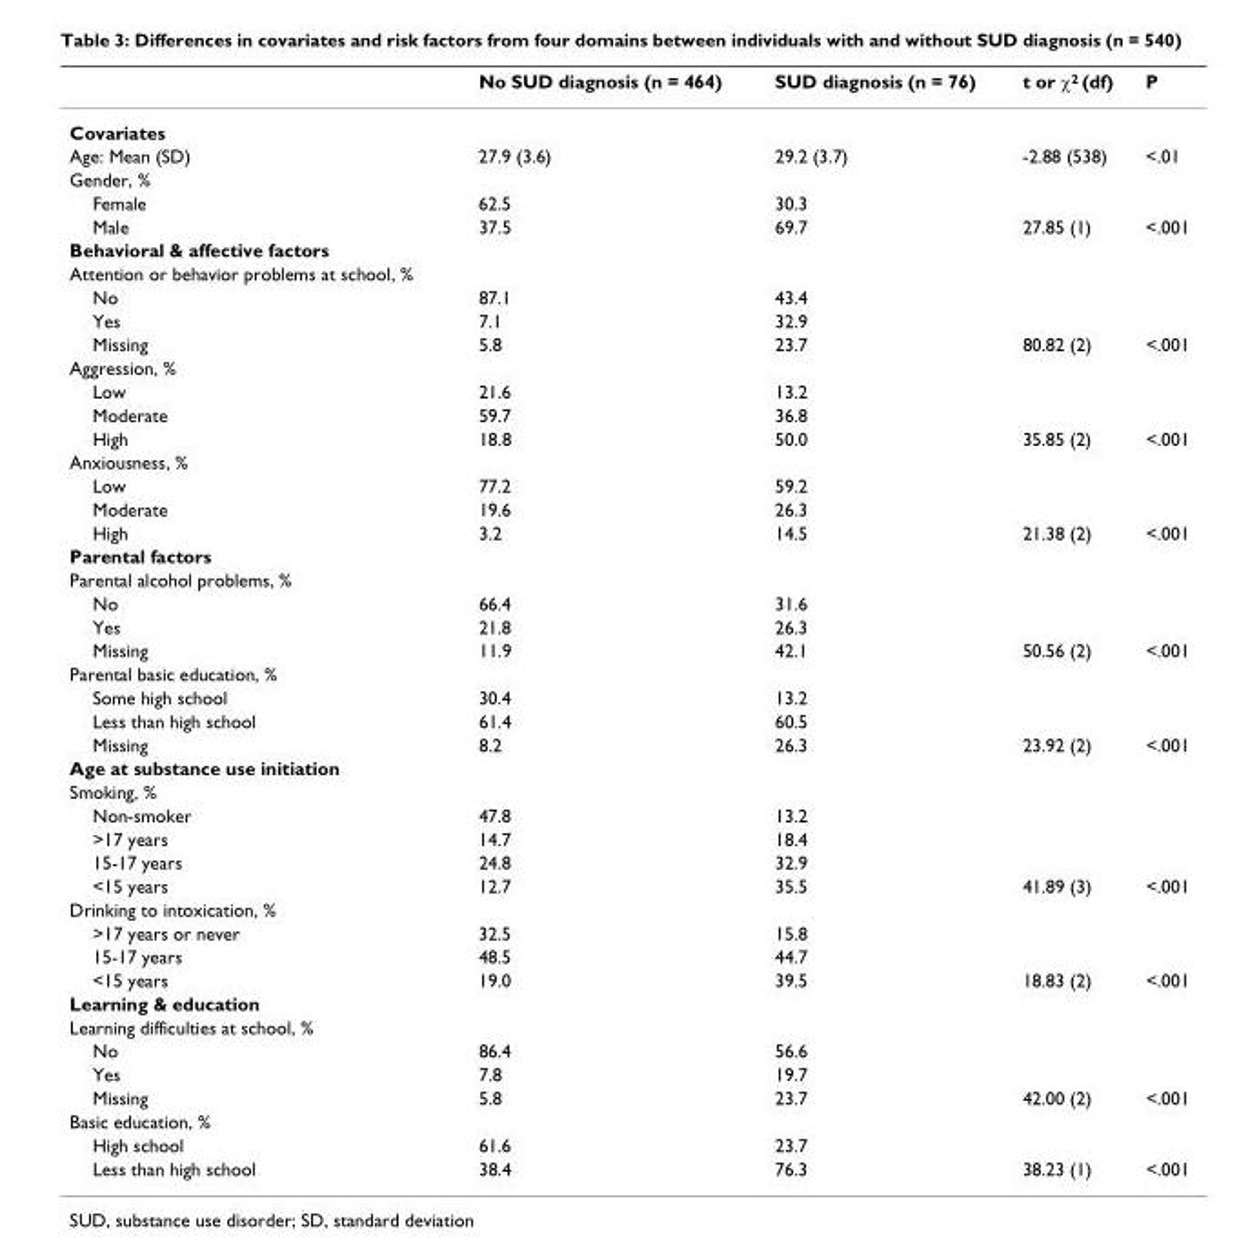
<table><thead><tr><td></td><td>No SUD diagnosis (n = 464)</td><td>SUD diagnosis (n = 76)</td><td>t or χ<sup>2</sup> (df)</td><td>P</td></tr></thead><tbody><tr><td colspan="5">Covariates</td></tr><tr><td>Age: Mean (SD)</td><td>27.9 (3.6)</td><td>29.2 (3.7)</td><td>-2.88 (538)</td><td>&lt;.01</td></tr><tr><td colspan="5">Gender, %</td></tr><tr><td>Female</td><td>62.5</td><td>30.3</td><td></td><td></td></tr><tr><td>Male</td><td>37.5</td><td>69.7</td><td>27.85 (1)</td><td>&lt;.001</td></tr><tr><td colspan="5">Behavioral &amp; affective factors</td></tr><tr><td colspan="5">Attention or behavior problems at school, %</td></tr><tr><td>No</td><td>87.1</td><td>43.4</td><td></td><td></td></tr><tr><td>Yes</td><td>7.1</td><td>32.9</td><td></td><td></td></tr><tr><td>Missing</td><td>5.8</td><td>23.7</td><td>80.82 (2)</td><td>&lt;.001</td></tr><tr><td colspan="5">Aggression, %</td></tr><tr><td>Low</td><td>21.6</td><td>13.2</td><td></td><td></td></tr><tr><td>Moderate</td><td>59.7</td><td>36.8</td><td></td><td></td></tr><tr><td>High</td><td>18.8</td><td>50.0</td><td>35.85 (2)</td><td>&lt;.001</td></tr><tr><td colspan="5">Anxiousness, %</td></tr><tr><td>Low</td><td>77.2</td><td>59.2</td><td></td><td></td></tr><tr><td>Moderate</td><td>19.6</td><td>26.3</td><td></td><td></td></tr><tr><td>High</td><td>3.2</td><td>14.5</td><td>21.38 (2)</td><td>&lt;.001</td></tr><tr><td colspan="5">Parental factors</td></tr><tr><td colspan="5">Parental alcohol problems, %</td></tr><tr><td>No</td><td>66.4</td><td>31.6</td><td></td><td></td></tr><tr><td>Yes</td><td>21.8</td><td>26.3</td><td></td><td></td></tr><tr><td>Missing</td><td>11.9</td><td>42.1</td><td>50.56 (2)</td><td>&lt;.001</td></tr><tr><td colspan="5">Parental basic education, %</td></tr><tr><td>Some high school</td><td>30.4</td><td>13.2</td><td></td><td></td></tr><tr><td>Less than high school</td><td>61.4</td><td>60.5</td><td></td><td></td></tr><tr><td>Missing</td><td>8.2</td><td>26.3</td><td>23.92 (2)</td><td>&lt;.001</td></tr><tr><td colspan="5">Age at substance use initiation</td></tr><tr><td colspan="5">Smoking, %</td></tr><tr><td>Non-smoker</td><td>47.8</td><td>13.2</td><td></td><td></td></tr><tr><td>&gt;17 years</td><td>14.7</td><td>18.4</td><td></td><td></td></tr><tr><td>15-17 years</td><td>24.8</td><td>32.9</td><td></td><td></td></tr><tr><td>&lt;15 years</td><td>12.7</td><td>35.5</td><td>41.89 (3)</td><td>&lt;.001</td></tr><tr><td colspan="5">Drinking to intoxication, %</td></tr><tr><td>&gt;17 years or never</td><td>32.5</td><td>15.8</td><td></td><td></td></tr><tr><td>15-17 years</td><td>48.5</td><td>44.7</td><td></td><td></td></tr><tr><td>&lt;15 years</td><td>19.0</td><td>39.5</td><td>18.83 (2)</td><td>&lt;.001</td></tr><tr><td colspan="5">Learning &amp; education</td></tr><tr><td colspan="5">Learning difficulties at school, %</td></tr><tr><td>No</td><td>86.4</td><td>56.6</td><td></td><td></td></tr><tr><td>Yes</td><td>7.8</td><td>19.7</td><td></td><td></td></tr><tr><td>Missing</td><td>5.8</td><td>23.7</td><td>42.00 (2)</td><td>&lt;.001</td></tr><tr><td colspan="5">Basic education, %</td></tr><tr><td>High school</td><td>61.6</td><td>23.7</td><td></td><td></td></tr><tr><td>Less than high school</td><td>38.4</td><td>76.3</td><td>38.23 (1)</td><td>&lt;.001</td></tr></tbody></table>